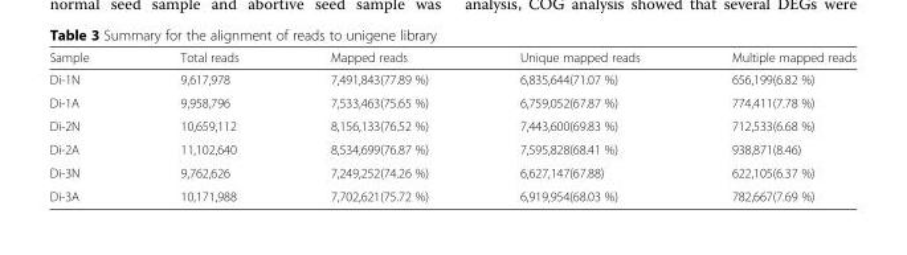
<table><thead><tr><td>Sample</td><td>Total reads</td><td>Mapped reads</td><td>Unique mapped reads</td><td>Multiple mapped reads</td></tr></thead><tbody><tr><td>Di-1N</td><td>9,617,978</td><td>7,491,843(77.89 %)</td><td>6,835,644(71.07 %)</td><td>656,199(6.82 %)</td></tr><tr><td>Di-1A</td><td>9,958,796</td><td>7,533,463(75.65 %)</td><td>6,759,052(67.87 %)</td><td>774,411(7.78 %)</td></tr><tr><td>Di-2N</td><td>10,659,112</td><td>8,156,133(76.52 %)</td><td>7,443,600(69.83 %)</td><td>712,533(6.68 %)</td></tr><tr><td>Di-2A</td><td>11,102,640</td><td>8,534,699(76.87 %)</td><td>7,595,828(68.41 %)</td><td>938,871(8.46)</td></tr><tr><td>Di-3N</td><td>9,762,626</td><td>7,249,252(74.26 %)</td><td>6,627,147(67.88)</td><td>622,105(6.37 %)</td></tr><tr><td>Di-3A</td><td>10,171,988</td><td>7,702,621(75.72 %)</td><td>6,919,954(68.03 %)</td><td>782,667(7.69 %)</td></tr></tbody></table>